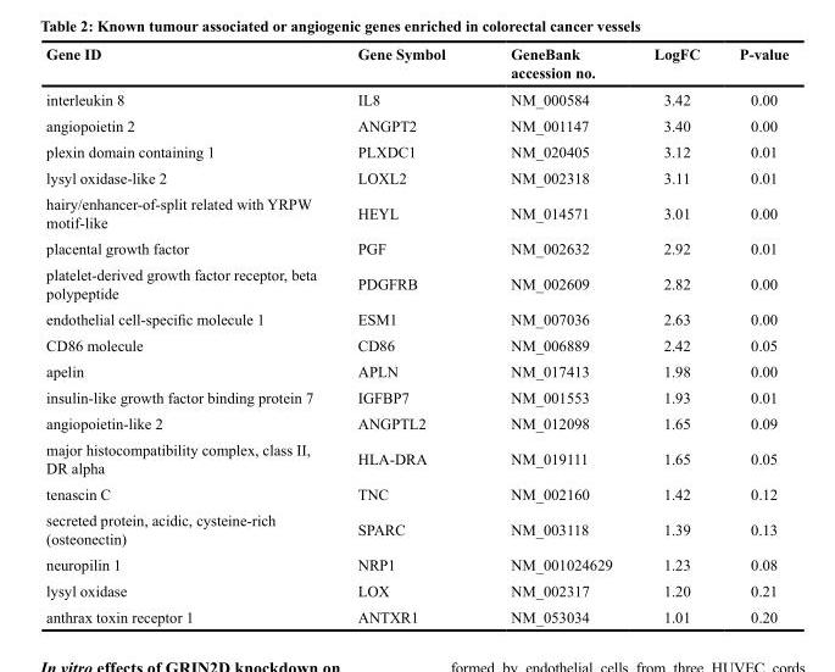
<table><thead><tr><td>Gene ID</td><td>Gene Symbol</td><td>GeneBank accession no.</td><td>LogFC</td><td>P-value</td></tr></thead><tbody><tr><td>interleukin 8</td><td>IL8</td><td>NM_000584</td><td>3.42</td><td>0.00</td></tr><tr><td>angiopoietin 2</td><td>ANGPT2</td><td>NM_001147</td><td>3.40</td><td>0.00</td></tr><tr><td>plexin domain containing 1</td><td>PLXDC1</td><td>NM_020405</td><td>3.12</td><td>0.01</td></tr><tr><td>lysyl oxidase-like 2</td><td>LOXL2</td><td>NM_002318</td><td>3.11</td><td>0.01</td></tr><tr><td>hairy/enhancer-of-split related with YRPW motif-like</td><td>HEYL</td><td>NM_014571</td><td>3.01</td><td>0.00</td></tr><tr><td>placental growth factor</td><td>PGF</td><td>NM_002632</td><td>2.92</td><td>0.01</td></tr><tr><td>platelet-derived growth factor receptor, beta polypeptide</td><td>PDGFRB</td><td>NM_002609</td><td>2.82</td><td>0.00</td></tr><tr><td>endothelial cell-specific molecule 1</td><td>ESM1</td><td>NM_007036</td><td>2.63</td><td>0.00</td></tr><tr><td>CD86 molecule</td><td>CD86</td><td>NM_006889</td><td>2.42</td><td>0.05</td></tr><tr><td>apelin</td><td>APLN</td><td>NM_017413</td><td>1.98</td><td>0.00</td></tr><tr><td>insulin-like growth factor binding protein 7</td><td>IGFBP7</td><td>NM_001553</td><td>1.93</td><td>0.01</td></tr><tr><td>angiopoietin-like 2</td><td>ANGPTL2</td><td>NM_012098</td><td>1.65</td><td>0.09</td></tr><tr><td>major histocompatibility complex, class II, DR alpha</td><td>HLA-DRA</td><td>NM_019111</td><td>1.65</td><td>0.05</td></tr><tr><td>tenascin C</td><td>TNC</td><td>NM_002160</td><td>1.42</td><td>0.12</td></tr><tr><td>secreted protein, acidic, cysteine-rich (osteonectin)</td><td>SPARC</td><td>NM_003118</td><td>1.39</td><td>0.13</td></tr><tr><td>neuropilin 1</td><td>NRP1</td><td>NM_001024629</td><td>1.23</td><td>0.08</td></tr><tr><td>lysyl oxidase</td><td>LOX</td><td>NM_002317</td><td>1.20</td><td>0.21</td></tr><tr><td>anthrax toxin receptor 1</td><td>ANTXR1</td><td>NM_053034</td><td>1.01</td><td>0.20</td></tr></tbody></table>